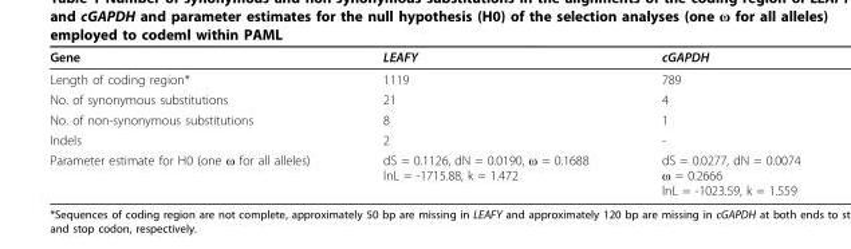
<table><thead><tr><td>Gene</td><td>LEAFY</td><td>cGAPDH</td></tr></thead><tbody><tr><td>Length of coding region*</td><td>1119</td><td>789</td></tr><tr><td>No. of synonymous substitutions</td><td>21</td><td>4</td></tr><tr><td>No. of non-synonymous substitutions</td><td>8</td><td>1</td></tr><tr><td>Indels</td><td>2</td><td>-</td></tr><tr><td>Parameter estimate for H0 (one ω for all alleles)</td><td>dS = 0.1126, dN = 0.0190, ω = 0.1688 lnL = -1715.88, k = 1.472</td><td>dS = 0.0277, dN = 0.0074 ω = 0.2666 lnL = -1023.59, k = 1.559</td></tr></tbody></table>